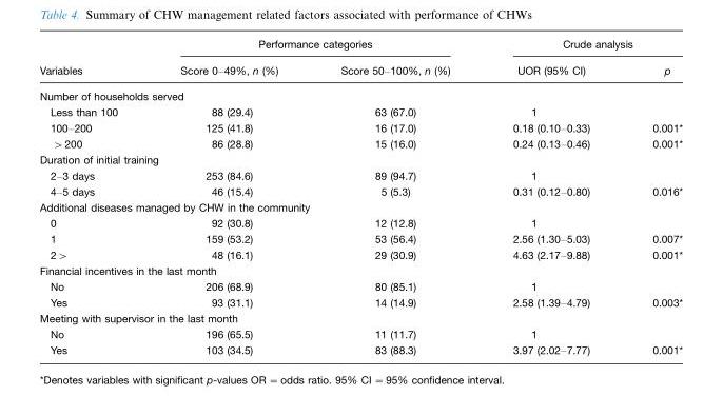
<table><thead><tr><td rowspan="2">Variables</td><td colspan="2">Performance categories</td><td colspan="2">Crude analysis</td></tr><tr><td>Score 0–49%, n (%)</td><td>Score 50–100%, n (%)</td><td>UOR (95% CI)</td><td>p</td></tr></thead><tbody><tr><td colspan="5">Number of households served</td></tr><tr><td>Less than 100</td><td>88 (29.4)</td><td>63 (67.0)</td><td>1</td><td></td></tr><tr><td>100–200</td><td>125 (41.8)</td><td>16 (17.0)</td><td>0.18 (0.10–0.33)</td><td>0.001*</td></tr><tr><td>&gt;200</td><td>86 (28.8)</td><td>15 (16.0)</td><td>0.24 (0.13–0.46)</td><td>0.001*</td></tr><tr><td colspan="5">Duration of initial training</td></tr><tr><td>2–3 days</td><td>253 (84.6)</td><td>89 (94.7)</td><td>1</td><td></td></tr><tr><td>4–5 days</td><td>46 (15.4)</td><td>5 (5.3)</td><td>0.31 (0.12–0.80)</td><td>0.016*</td></tr><tr><td colspan="5">Additional diseases managed by CHW in the community</td></tr><tr><td>0</td><td>92 (30.8)</td><td>12 (12.8)</td><td>1</td><td></td></tr><tr><td>1</td><td>159 (53.2)</td><td>53 (56.4)</td><td>2.56 (1.30–5.03)</td><td>0.007*</td></tr><tr><td>2&gt;</td><td>48 (16.1)</td><td>29 (30.9)</td><td>4.63 (2.17–9.88)</td><td>0.001*</td></tr><tr><td colspan="5">Financial incentives in the last month</td></tr><tr><td>No</td><td>206 (68.9)</td><td>80 (85.1)</td><td>1</td><td></td></tr><tr><td>Yes</td><td>93 (31.1)</td><td>14 (14.9)</td><td>2.58 (1.39–4.79)</td><td>0.003*</td></tr><tr><td colspan="5">Meeting with supervisor in the last month</td></tr><tr><td>No</td><td>196 (65.5)</td><td>11 (11.7)</td><td>1</td><td></td></tr><tr><td>Yes</td><td>103 (34.5)</td><td>83 (88.3)</td><td>3.97 (2.02–7.77)</td><td>0.001*</td></tr></tbody></table>